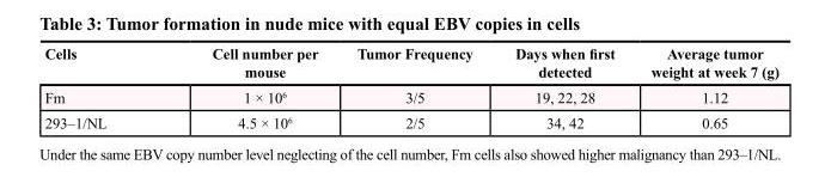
<table><thead><tr><td>Cells</td><td>Cell number per mouse</td><td>Tumor Frequency</td><td>Days when first detected</td><td>Average tumor weight at week 7 (g)</td></tr></thead><tbody><tr><td>Fm</td><td>1 × 10<sup>6</sup></td><td>3/5</td><td>19, 22, 28</td><td>1.12</td></tr><tr><td>293–1/NL</td><td>4.5 × 10<sup>6</sup></td><td>2/5</td><td>34, 42</td><td>0.65</td></tr></tbody></table>